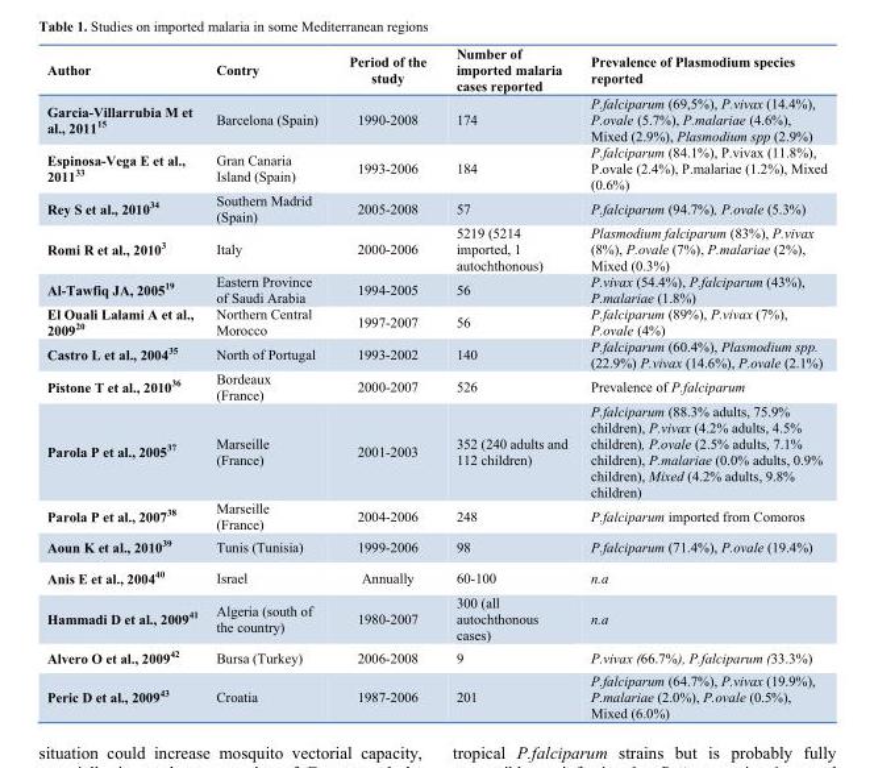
<table><thead><tr><td>Author</td><td>Contry</td><td>Period of the study</td><td>Number of imported malaria cases reported</td><td>Prevalence of Plasmodium species reported</td></tr></thead><tbody><tr><td>Garcia-Villarrubia M et al., 2011<sup>15</sup></td><td>Barcelona (Spain)</td><td>1990-2008</td><td>174</td><td>P.falciparum (69,5%), P.vivax (14.4%), P.ovale (5.7%), P.malariae (4.6%), Mixed (2.9%), Plasmodium spp (2.9%)</td></tr><tr><td>Espinosa-Vega E et al., 2011<sup>33</sup></td><td>Gran Canaria Island (Spain)</td><td>1993-2006</td><td>184</td><td>P.falciparum (84.1%), P.vivax (11.8%), P.ovale (2.4%), P.malariae (1.2%), Mixed (0.6%)</td></tr><tr><td>Rey S et al., 2010<sup>34</sup></td><td>Southern Madrid (Spain)</td><td>2005-2008</td><td>57</td><td>P.falciparum (94.7%), P.ovale (5.3%)</td></tr><tr><td>Romi R et al., 2010<sup>3</sup></td><td>Italy</td><td>2000-2006</td><td>5219 (5214 imported, 1 autochthonous)</td><td>Plasmodium falciparum (83%), P.vivax (8%), P.ovale (7%), P.malariae (2%), Mixed (0.3%)</td></tr><tr><td>Al-Tawfiq JA, 2005<sup>19</sup></td><td>Eastern Province of Saudi Arabia</td><td>1994-2005</td><td>56</td><td>P.vivax (54.4%), P.falciparum (43%), P.malariae (1.8%)</td></tr><tr><td>El Ouali Lalami A et al., 2009<sup>20</sup></td><td>Northern Central Morocco</td><td>1997-2007</td><td>56</td><td>P.falciparum (89%), P.vivax (7%), P.ovale (4%)</td></tr><tr><td>Castro L et al., 2004<sup>35</sup></td><td>North of Portugal</td><td>1993-2002</td><td>140</td><td>P.falciparum (60.4%), Plasmodium spp. (22.9%) P.vivax (14.6%), P.ovale (2.1%)</td></tr><tr><td>Pistone T et al., 2010<sup>36</sup></td><td>Bordeaux (France)</td><td>2000-2007</td><td>526</td><td>Prevalence of P.falciparum</td></tr><tr><td>Parola P et al., 2005<sup>37</sup></td><td>Marseille (France)</td><td>2001-2003</td><td>352 (240 adults and 112 children)</td><td>P.falciparum (88.3% adults, 75.9% children), P.vivax (4.2% adults, 4.5% children), P.ovale (2.5% adults, 7.1% children), P.malariae (0.0% adults, 0.9% children), Mixed (4.2% adults, 9.8% children)</td></tr><tr><td>Parola P et al., 2007<sup>38</sup></td><td>Marseille (France)</td><td>2004-2006</td><td>248</td><td>P.falciparum imported from Comoros</td></tr><tr><td>Aoun K et al., 2010<sup>39</sup></td><td>Tunis (Tunisia)</td><td>1999-2006</td><td>98</td><td>P.falciparum (71.4%), P.ovale (19.4%)</td></tr><tr><td>Anis E et al., 2004<sup>40</sup></td><td>Israel</td><td>Annually</td><td>60-100</td><td>n.a</td></tr><tr><td>Hammadi D et al., 2009<sup>41</sup></td><td>Algeria (south of the country)</td><td>1980-2007</td><td>300 (all autochthonous cases)</td><td>n.a</td></tr><tr><td>Alvero O et al., 2009<sup>42</sup></td><td>Bursa (Turkey)</td><td>2006-2008</td><td>9</td><td>P.vivax (66.7%), P.falciparum (33.3%)</td></tr><tr><td>Peric D et al., 2009<sup>43</sup></td><td>Croatia</td><td>1987-2006</td><td>201</td><td>P.falciparum (64.7%), P.vivax (19.9%), P.malariae (2.0%), P.ovale (0.5%), Mixed (6.0%)</td></tr></tbody></table>